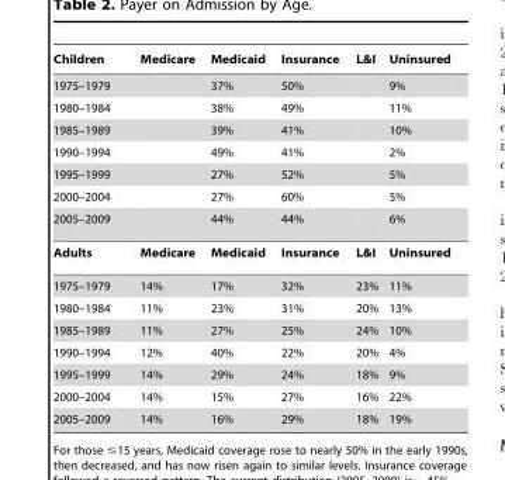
<table><thead><tr><td>Children</td><td>Medicare</td><td>Medicaid</td><td>Insurance</td><td>L&amp;I</td><td>Uninsured</td></tr></thead><tbody><tr><td>1975–1979</td><td></td><td>37%</td><td>50%</td><td></td><td>9%</td></tr><tr><td>1980–1984</td><td></td><td>38%</td><td>49%</td><td></td><td>11%</td></tr><tr><td>1985–1989</td><td></td><td>39%</td><td>41%</td><td></td><td>10%</td></tr><tr><td>1990–1994</td><td></td><td>49%</td><td>41%</td><td></td><td>2%</td></tr><tr><td>1995–1999</td><td></td><td>27%</td><td>52%</td><td></td><td>5%</td></tr><tr><td>2000–2004</td><td></td><td>27%</td><td>60%</td><td></td><td>5%</td></tr><tr><td>2005–2009</td><td></td><td>44%</td><td>44%</td><td></td><td>6%</td></tr><tr><td>Adults</td><td>Medicare</td><td>Medicaid</td><td>Insurance</td><td>L&amp;I</td><td>Uninsured</td></tr><tr><td>1975–1979</td><td>14%</td><td>17%</td><td>32%</td><td>23%</td><td>11%</td></tr><tr><td>1980–1984</td><td>11%</td><td>23%</td><td>31%</td><td>20%</td><td>13%</td></tr><tr><td>1985–1989</td><td>11%</td><td>27%</td><td>25%</td><td>24%</td><td>10%</td></tr><tr><td>1990–1994</td><td>12%</td><td>40%</td><td>22%</td><td>20%</td><td>4%</td></tr><tr><td>1995–1999</td><td>14%</td><td>29%</td><td>24%</td><td>18%</td><td>9%</td></tr><tr><td>2000–2004</td><td>14%</td><td>15%</td><td>27%</td><td>16%</td><td>22%</td></tr><tr><td>2005–2009</td><td>14%</td><td>16%</td><td>29%</td><td>18%</td><td>19%</td></tr></tbody></table>